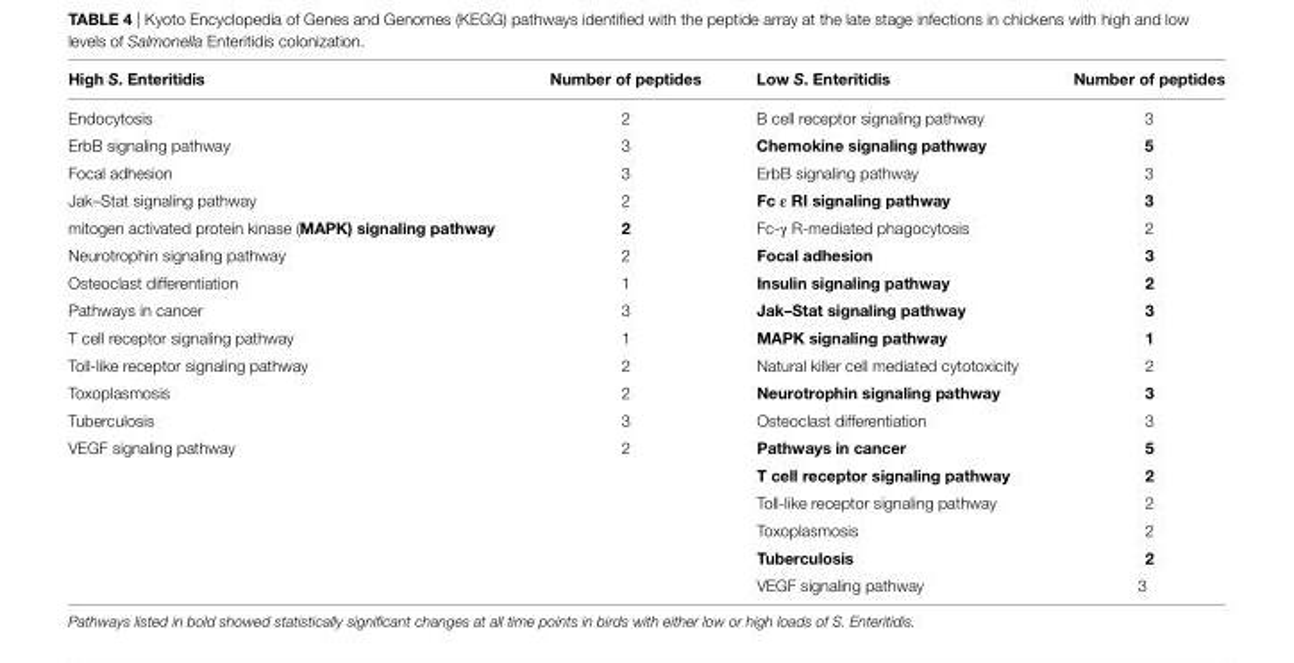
<table><thead><tr><td>high S. enteritidis</td><td>number of peptides</td><td>low S. enteritidis</td><td>number of peptides</td></tr></thead><tbody><tr><td>Endocytosis</td><td>2</td><td>B cell receptor signaling pathway</td><td>3</td></tr><tr><td>ErbB signaling pathway</td><td>3</td><td>chemokine signaling pathway</td><td>5</td></tr><tr><td>Focal adhesion</td><td>3</td><td>ErbB signaling pathway</td><td>3</td></tr><tr><td>Jak–Stat signaling pathway</td><td>2</td><td>Fc ε ri signaling pathway</td><td>3</td></tr><tr><td>mitogen activated protein kinase (MaPK) signaling pathway</td><td>2</td><td>Fc-γ R-mediated phagocytosis</td><td>2</td></tr><tr><td>Neurotrophin signaling pathway</td><td>2</td><td>Focal adhesion</td><td>3</td></tr><tr><td>Osteoclast differentiation</td><td>1</td><td>insulin signaling pathway</td><td>2</td></tr><tr><td>Pathways in cancer</td><td>3</td><td>Jak–stat signaling pathway</td><td>3</td></tr><tr><td>T cell receptor signaling pathway</td><td>1</td><td>MaPK signaling pathway</td><td>1</td></tr><tr><td>Toll-like receptor signaling pathway</td><td>2</td><td>Natural killer cell mediated cytotoxicity</td><td>2</td></tr><tr><td>Toxoplasmosis</td><td>2</td><td>neurotrophin signaling pathway</td><td>3</td></tr><tr><td>Tuberculosis</td><td>3</td><td>Osteoclast differentiation</td><td>3</td></tr><tr><td rowspan="6">VEGF signaling pathway</td><td>2</td><td>Pathways in cancer</td><td>5</td></tr><tr><td></td><td>T cell receptor signaling pathway</td><td>2</td></tr><tr><td></td><td>Toll-like receptor signaling pathway</td><td>2</td></tr><tr><td></td><td>Toxoplasmosis</td><td>2</td></tr><tr><td></td><td>Tuberculosis</td><td>2</td></tr><tr><td></td><td>VEGF signaling pathway</td><td>3</td></tr></tbody></table>